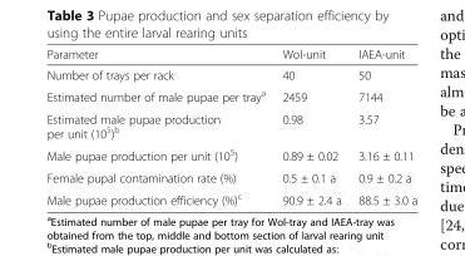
<table><thead><tr><td>Parameter</td><td>Wol-unit</td><td>IAEA-unit</td></tr></thead><tbody><tr><td>Number of trays per rack</td><td>40</td><td>50</td></tr><tr><td>Estimated number of male pupae per tray<sup>a</sup></td><td>2459</td><td>7144</td></tr><tr><td>Estimated male pupae production per unit (10<sup>5</sup>)<sup>b</sup></td><td>0.98</td><td>3.57</td></tr><tr><td>Male pupae production per unit (10<sup>5</sup>)</td><td>0.89 ± 0.02</td><td>3.16 ± 0.11</td></tr><tr><td>Female pupal contamination rate (%)</td><td>0.5 ± 0.1 a</td><td>0.9 ± 0.2 a</td></tr><tr><td>Male pupae production efficiency (%)<sup>c</sup></td><td>90.9 ± 2.4 a</td><td>88.5 ± 3.0 a</td></tr></tbody></table>